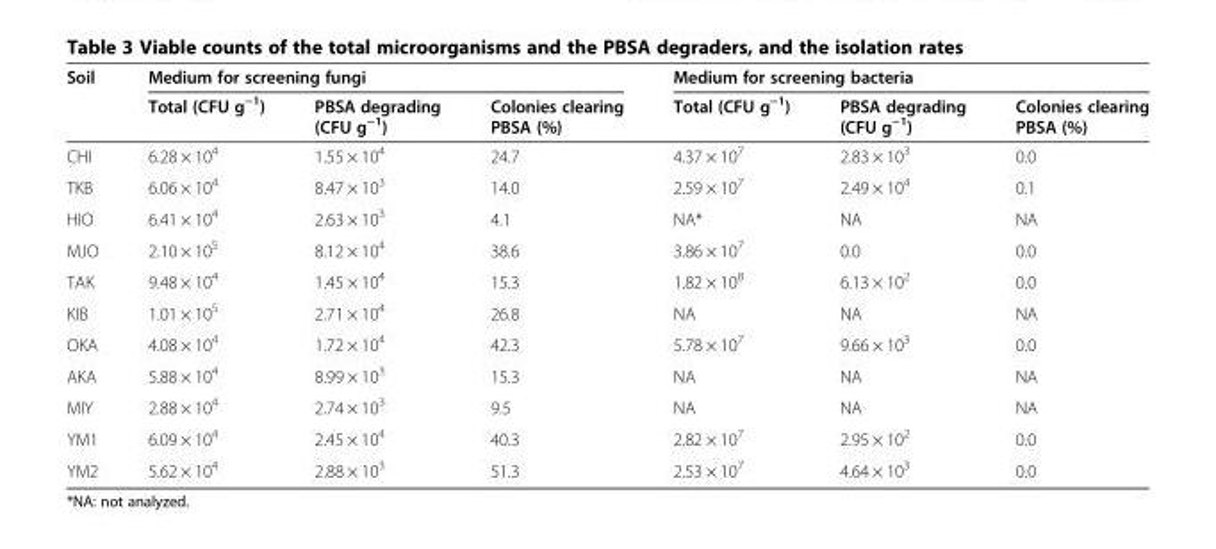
<table><thead><tr><td rowspan="2">Soil</td><td colspan="3">Medium for screening fungi</td><td colspan="3">Medium for screening bacteria</td></tr><tr><td>Total (CFU g<sup>−1</sup>)</td><td>PBSA degrading (CFU g<sup>−1</sup>)</td><td>Colonies clearing PBSA (%)</td><td>Total (CFU g<sup>−1</sup>)</td><td>PBSA degrading (CFU g<sup>−1</sup>)</td><td>Colonies clearing PBSA (%)</td></tr></thead><tbody><tr><td>CHI</td><td>6.28 × 10<sup>4</sup></td><td>1.55 × 10<sup>4</sup></td><td>24.7</td><td>4.37 × 10<sup>7</sup></td><td>2.83 × 10<sup>3</sup></td><td>0.0</td></tr><tr><td>TKB</td><td>6.06 × 10<sup>4</sup></td><td>8.47 × 10<sup>3</sup></td><td>14.0</td><td>2.59 × 10<sup>7</sup></td><td>2.49 × 10<sup>4</sup></td><td>0.1</td></tr><tr><td>HIO</td><td>6.41 × 10<sup>4</sup></td><td>2.63 × 10<sup>3</sup></td><td>4.1</td><td>NA*</td><td>NA</td><td>NA</td></tr><tr><td>MJO</td><td>2.10 × 10<sup>5</sup></td><td>8.12 × 10<sup>4</sup></td><td>38.6</td><td>3.86 × 10<sup>7</sup></td><td>0.0</td><td>0.0</td></tr><tr><td>TAK</td><td>9.48 × 10<sup>4</sup></td><td>1.45 × 10<sup>4</sup></td><td>15.3</td><td>1.82 × 10<sup>8</sup></td><td>6.13 × 10<sup>2</sup></td><td>0.0</td></tr><tr><td>KIB</td><td>1.01 × 10<sup>5</sup></td><td>2.71 × 10<sup>4</sup></td><td>26.8</td><td>NA</td><td>NA</td><td>NA</td></tr><tr><td>OKA</td><td>4.08 × 10<sup>4</sup></td><td>1.72 × 10<sup>4</sup></td><td>42.3</td><td>5.78 × 10<sup>7</sup></td><td>9.66 × 10<sup>3</sup></td><td>0.0</td></tr><tr><td>AKA</td><td>5.88 × 10<sup>4</sup></td><td>8.99 × 10<sup>3</sup></td><td>15.3</td><td>NA</td><td>NA</td><td>NA</td></tr><tr><td>MIY</td><td>2.88 × 10<sup>4</sup></td><td>2.74 × 10<sup>3</sup></td><td>9.5</td><td>NA</td><td>NA</td><td>NA</td></tr><tr><td>YM1</td><td>6.09 × 10<sup>4</sup></td><td>2.45 × 10<sup>4</sup></td><td>40.3</td><td>2.82 × 10<sup>7</sup></td><td>2.95 × 10<sup>2</sup></td><td>0.0</td></tr><tr><td>YM2</td><td>5.62 × 10<sup>4</sup></td><td>2.88 × 10<sup>3</sup></td><td>51.3</td><td>2.53 × 10<sup>7</sup></td><td>4.64 × 10<sup>3</sup></td><td>0.0</td></tr></tbody></table>